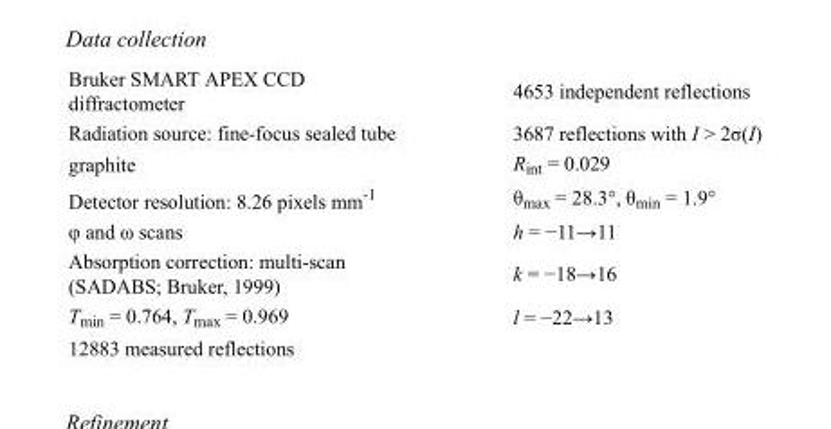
<table><tbody><tr><td>Bruker SMART APEX CCD diffractometer</td><td>4653 independent reflections</td></tr><tr><td>Radiation source: fine-focus sealed tube</td><td>3687 reflections with I &gt; 2σ(I)</td></tr><tr><td>graphite</td><td>R<sub>int</sub> = 0.029</td></tr><tr><td>Detector resolution: 8.26 pixels mm<sup>-1</sup></td><td>θ<sub>max</sub> = 28.3°, θ<sub>min</sub> = 1.9°</td></tr><tr><td>φ and ω scans</td><td>h = −11→11</td></tr><tr><td>Absorption correction: multi-scan (SADABS; Bruker, 1999)</td><td>k = −18→16</td></tr><tr><td>T<sub>min</sub> = 0.764, T<sub>max</sub> = 0.969</td><td>l = −22→13</td></tr><tr><td>12883 measured reflections</td><td></td></tr></tbody></table>